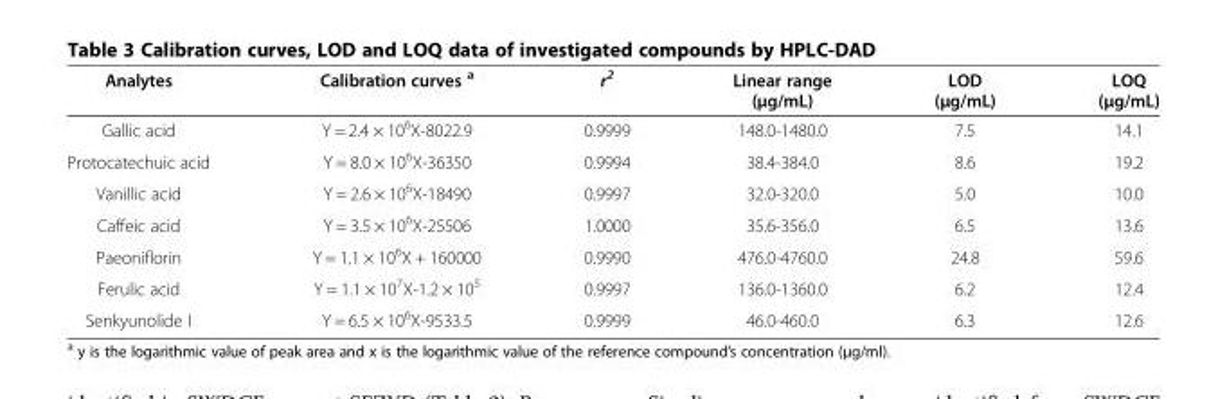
<table><thead><tr><td>Analytes</td><td>Calibration curves <sup>a</sup></td><td>r<sup>2</sup></td><td>Linear range (μg/mL)</td><td>LOD (μg/mL)</td><td>LOQ (μg/mL)</td></tr></thead><tbody><tr><td>Gallic acid</td><td>Y = 2.4 × 10<sup>6</sup>X-8022.9</td><td>0.9999</td><td>148.0-1480.0</td><td>7.5</td><td>14.1</td></tr><tr><td>Protocatechuic acid</td><td>Y = 8.0 × 10<sup>6</sup>X-36350</td><td>0.9994</td><td>38.4-384.0</td><td>8.6</td><td>19.2</td></tr><tr><td>Vanillic acid</td><td>Y = 2.6 × 10<sup>6</sup>X-18490</td><td>0.9997</td><td>32.0-320.0</td><td>5.0</td><td>10.0</td></tr><tr><td>Caffeic acid</td><td>Y = 3.5 × 10<sup>6</sup>X-25506</td><td>1.0000</td><td>35.6-356.0</td><td>6.5</td><td>13.6</td></tr><tr><td>Paeoniflorin</td><td>Y = 1.1 × 10<sup>6</sup>X + 160000</td><td>0.9990</td><td>476.0-4760.0</td><td>24.8</td><td>59.6</td></tr><tr><td>Ferulic acid</td><td>Y = 1.1 × 10<sup>7</sup>X-1.2 × 10<sup>5</sup></td><td>0.9997</td><td>136.0-1360.0</td><td>6.2</td><td>12.4</td></tr><tr><td>Senkyunolide I</td><td>Y = 6.5 × 10<sup>6</sup>X-9533.5</td><td>0.9999</td><td>46.0-460.0</td><td>6.3</td><td>12.6</td></tr></tbody></table>